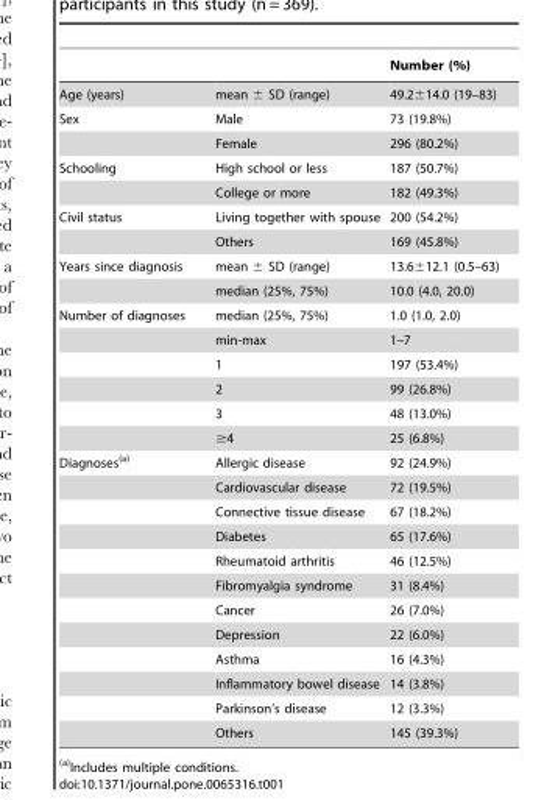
<table><thead><tr><td></td><td></td><td>Number (%)</td></tr></thead><tbody><tr><td>Age (years)</td><td>mean ± SD (range)</td><td>49.2±14.0 (19–83)</td></tr><tr><td rowspan="2">Sex</td><td>Male</td><td>73 (19.8%)</td></tr><tr><td>Female</td><td>296 (80.2%)</td></tr><tr><td rowspan="2">Schooling</td><td>High school or less</td><td>187 (50.7%)</td></tr><tr><td>College or more</td><td>182 (49.3%)</td></tr><tr><td rowspan="2">Civil status</td><td>Living together with spouse</td><td>200 (54.2%)</td></tr><tr><td>Others</td><td>169 (45.8%)</td></tr><tr><td rowspan="2">Years since diagnosis</td><td>mean ± SD (range)</td><td>13.6±12.1 (0.5–63)</td></tr><tr><td>median (25%, 75%)</td><td>10.0 (4.0, 20.0)</td></tr><tr><td rowspan="6">Number of diagnoses</td><td>median (25%, 75%)</td><td>1.0 (1.0, 2.0)</td></tr><tr><td>min-max</td><td>1–7</td></tr><tr><td>1</td><td>197 (53.4%)</td></tr><tr><td>2</td><td>99 (26.8%)</td></tr><tr><td>3</td><td>48 (13.0%)</td></tr><tr><td>≥4</td><td>25 (6.8%)</td></tr><tr><td rowspan="12">Diagnoses(a)</td><td>Allergic disease</td><td>92 (24.9%)</td></tr><tr><td>Cardiovascular disease</td><td>72 (19.5%)</td></tr><tr><td>Connective tissue disease</td><td>67 (18.2%)</td></tr><tr><td>Diabetes</td><td>65 (17.6%)</td></tr><tr><td>Rheumatoid arthritis</td><td>46 (12.5%)</td></tr><tr><td>Fibromyalgia syndrome</td><td>31 (8.4%)</td></tr><tr><td>Cancer</td><td>26 (7.0%)</td></tr><tr><td>Depression</td><td>22 (6.0%)</td></tr><tr><td>Asthma</td><td>16 (4.3%)</td></tr><tr><td>Inflammatory bowel disease</td><td>14 (3.8%)</td></tr><tr><td>Parkinson’s disease</td><td>12 (3.3%)</td></tr><tr><td>Others</td><td>145 (39.3%)</td></tr></tbody></table>